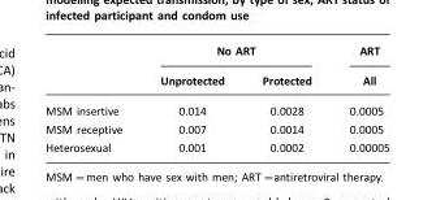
<table><thead><tr><td rowspan="2"></td><td colspan="2">No ART</td><td rowspan="2">ART All</td></tr><tr><td>Unprotected</td><td>Protected</td></tr></thead><tbody><tr><td>MSM insertive</td><td>0.014</td><td>0.0028</td><td>0.0005</td></tr><tr><td>MSM receptive</td><td>0.007</td><td>0.0014</td><td>0.0005</td></tr><tr><td>Heterosexual</td><td>0.001</td><td>0.0002</td><td>0.00005</td></tr></tbody></table>